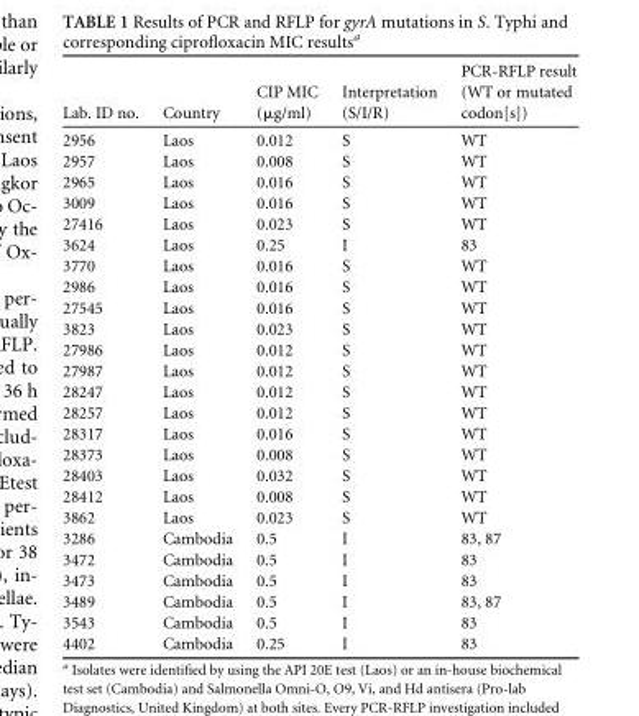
<table><thead><tr><td>Lab. ID no.</td><td>Country</td><td>CIP MIC (μg/ml)</td><td>Interpretation (S/I/R)</td><td>PCR-RFLP result (WT or mutated codon[s])</td></tr></thead><tbody><tr><td>2956</td><td>Laos</td><td>0.012</td><td>S</td><td>WT</td></tr><tr><td>2957</td><td>Laos</td><td>0.008</td><td>S</td><td>WT</td></tr><tr><td>2965</td><td>Laos</td><td>0.016</td><td>S</td><td>WT</td></tr><tr><td>3009</td><td>Laos</td><td>0.016</td><td>S</td><td>WT</td></tr><tr><td>27416</td><td>Laos</td><td>0.023</td><td>S</td><td>WT</td></tr><tr><td>3624</td><td>Laos</td><td>0.25</td><td>I</td><td>83</td></tr><tr><td>3770</td><td>Laos</td><td>0.016</td><td>S</td><td>WT</td></tr><tr><td>2986</td><td>Laos</td><td>0.016</td><td>S</td><td>WT</td></tr><tr><td>27545</td><td>Laos</td><td>0.016</td><td>S</td><td>WT</td></tr><tr><td>3823</td><td>Laos</td><td>0.023</td><td>S</td><td>WT</td></tr><tr><td>27986</td><td>Laos</td><td>0.012</td><td>S</td><td>WT</td></tr><tr><td>27987</td><td>Laos</td><td>0.012</td><td>S</td><td>WT</td></tr><tr><td>28247</td><td>Laos</td><td>0.012</td><td>S</td><td>WT</td></tr><tr><td>28257</td><td>Laos</td><td>0.012</td><td>S</td><td>WT</td></tr><tr><td>28317</td><td>Laos</td><td>0.016</td><td>S</td><td>WT</td></tr><tr><td>28373</td><td>Laos</td><td>0.008</td><td>S</td><td>WT</td></tr><tr><td>28403</td><td>Laos</td><td>0.032</td><td>S</td><td>WT</td></tr><tr><td>28412</td><td>Laos</td><td>0.008</td><td>S</td><td>WT</td></tr><tr><td>3862</td><td>Laos</td><td>0.023</td><td>S</td><td>WT</td></tr><tr><td>3286</td><td>Cambodia</td><td>0.5</td><td>I</td><td>83, 87</td></tr><tr><td>3472</td><td>Cambodia</td><td>0.5</td><td>I</td><td>83</td></tr><tr><td>3473</td><td>Cambodia</td><td>0.5</td><td>I</td><td>83</td></tr><tr><td>3489</td><td>Cambodia</td><td>0.5</td><td>I</td><td>83, 87</td></tr><tr><td>3543</td><td>Cambodia</td><td>0.5</td><td>I</td><td>83</td></tr><tr><td>4402</td><td>Cambodia</td><td>0.25</td><td>I</td><td>83</td></tr></tbody></table>